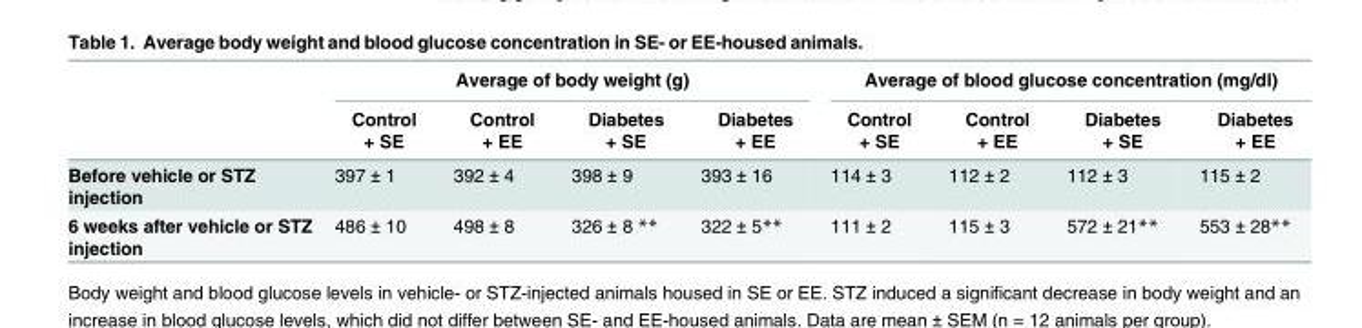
<table><thead><tr><td rowspan="2"></td><td colspan="4">Average of body weight (g)</td><td colspan="4">Average of blood glucose concentration (mg/dl)</td></tr><tr><td>Control + SE</td><td>Control + EE</td><td>Diabetes + SE</td><td>Diabetes + EE</td><td>Control + SE</td><td>Control + EE</td><td>Diabetes + SE</td><td>Diabetes + EE</td></tr></thead><tbody><tr><td>Before vehicle or STZ injection</td><td>397 ± 1</td><td>392 ± 4</td><td>398 ± 9</td><td>393 ± 16</td><td>114 ± 3</td><td>112 ± 2</td><td>112 ± 3</td><td>115 ± 2</td></tr><tr><td>6 weeks after vehicle or STZ injection</td><td>486 ± 10</td><td>498 ± 8</td><td>326 ± 8 **</td><td>322 ± 5**</td><td>111 ± 2</td><td>115 ± 3</td><td>572 ± 21**</td><td>553 ± 28**</td></tr></tbody></table>